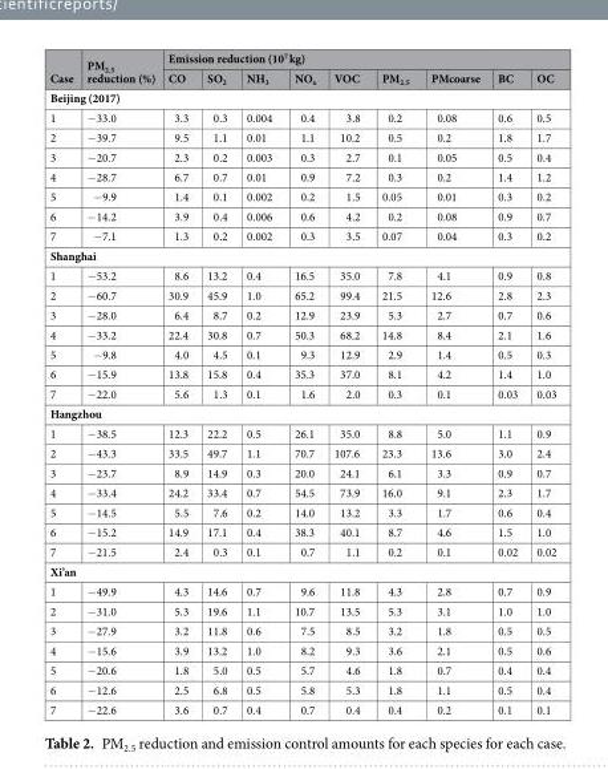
<table><thead><tr><td rowspan="2">Case</td><td rowspan="2">PM<sub>2.5</sub> reduction (%)</td><td colspan="9">Emission reduction (10<sup>7</sup> kg)</td></tr><tr><td>CO</td><td>SO<sub>2</sub></td><td>NH<sub>3</sub></td><td>NO<sub>x</sub></td><td>VOC</td><td>PM<sub>2.5</sub></td><td>PMcoarse</td><td>BC</td><td>OC</td></tr></thead><tbody><tr><td colspan="11">Beijing (2017)</td></tr><tr><td>1</td><td>−33.0</td><td>3.3</td><td>0.3</td><td>0.004</td><td>0.4</td><td>3.8</td><td>0.2</td><td>0.08</td><td>0.6</td><td>0.5</td></tr><tr><td>2</td><td>−39.7</td><td>9.5</td><td>1.1</td><td>0.01</td><td>1.1</td><td>10.2</td><td>0.5</td><td>0.2</td><td>1.8</td><td>1.7</td></tr><tr><td>3</td><td>−20.7</td><td>2.3</td><td>0.2</td><td>0.003</td><td>0.3</td><td>2.7</td><td>0.1</td><td>0.05</td><td>0.5</td><td>0.4</td></tr><tr><td>4</td><td>−28.7</td><td>6.7</td><td>0.7</td><td>0.01</td><td>0.9</td><td>7.2</td><td>0.3</td><td>0.2</td><td>1.4</td><td>1.2</td></tr><tr><td>5</td><td>−9.9</td><td>1.4</td><td>0.1</td><td>0.002</td><td>0.2</td><td>1.5</td><td>0.05</td><td>0.01</td><td>0.3</td><td>0.2</td></tr><tr><td>6</td><td>−14.2</td><td>3.9</td><td>0.4</td><td>0.006</td><td>0.6</td><td>4.2</td><td>0.2</td><td>0.08</td><td>0.9</td><td>0.7</td></tr><tr><td>7</td><td>−7.1</td><td>1.3</td><td>0.2</td><td>0.002</td><td>0.3</td><td>3.5</td><td>0.07</td><td>0.04</td><td>0.3</td><td>0.2</td></tr><tr><td colspan="11">Shanghai</td></tr><tr><td>1</td><td>−53.2</td><td>8.6</td><td>13.2</td><td>0.4</td><td>16.5</td><td>35.0</td><td>7.8</td><td>4.1</td><td>0.9</td><td>0.8</td></tr><tr><td>2</td><td>−60.7</td><td>30.9</td><td>45.9</td><td>1.0</td><td>65.2</td><td>99.4</td><td>21.5</td><td>12.6</td><td>2.8</td><td>2.3</td></tr><tr><td>3</td><td>−28.0</td><td>6.4</td><td>8.7</td><td>0.2</td><td>12.9</td><td>23.9</td><td>5.3</td><td>2.7</td><td>0.7</td><td>0.6</td></tr><tr><td>4</td><td>−33.2</td><td>22.4</td><td>30.8</td><td>0.7</td><td>50.3</td><td>68.2</td><td>14.8</td><td>8.4</td><td>2.1</td><td>1.6</td></tr><tr><td>5</td><td>−9.8</td><td>4.0</td><td>4.5</td><td>0.1</td><td>9.3</td><td>12.9</td><td>2.9</td><td>1.4</td><td>0.5</td><td>0.3</td></tr><tr><td>6</td><td>−15.9</td><td>13.8</td><td>15.8</td><td>0.4</td><td>35.3</td><td>37.0</td><td>8.1</td><td>4.2</td><td>1.4</td><td>1.0</td></tr><tr><td>7</td><td>−22.0</td><td>5.6</td><td>1.3</td><td>0.1</td><td>1.6</td><td>2.0</td><td>0.3</td><td>0.1</td><td>0.03</td><td>0.03</td></tr><tr><td colspan="11">Hangzhou</td></tr><tr><td>1</td><td>−38.5</td><td>12.3</td><td>22.2</td><td>0.5</td><td>26.1</td><td>35.0</td><td>8.8</td><td>5.0</td><td>1.1</td><td>0.9</td></tr><tr><td>2</td><td>−43.3</td><td>33.5</td><td>49.7</td><td>1.1</td><td>70.7</td><td>107.6</td><td>23.3</td><td>13.6</td><td>3.0</td><td>2.4</td></tr><tr><td>3</td><td>−23.7</td><td>8.9</td><td>14.9</td><td>0.3</td><td>20.0</td><td>24.1</td><td>6.1</td><td>3.3</td><td>0.9</td><td>0.7</td></tr><tr><td>4</td><td>−33.4</td><td>24.2</td><td>33.4</td><td>0.7</td><td>54.5</td><td>73.9</td><td>16.0</td><td>9.1</td><td>2.3</td><td>1.7</td></tr><tr><td>5</td><td>−14.5</td><td>5.5</td><td>7.6</td><td>0.2</td><td>14.0</td><td>13.2</td><td>3.3</td><td>1.7</td><td>0.6</td><td>0.4</td></tr><tr><td>6</td><td>−15.2</td><td>14.9</td><td>17.1</td><td>0.4</td><td>38.3</td><td>40.1</td><td>8.7</td><td>4.6</td><td>1.5</td><td>1.0</td></tr><tr><td>7</td><td>−21.5</td><td>2.4</td><td>0.3</td><td>0.1</td><td>0.7</td><td>1.1</td><td>0.2</td><td>0.1</td><td>0.02</td><td>0.02</td></tr><tr><td colspan="11">Xi’an</td></tr><tr><td>1</td><td>−49.9</td><td>4.3</td><td>14.6</td><td>0.7</td><td>9.6</td><td>11.8</td><td>4.3</td><td>2.8</td><td>0.7</td><td>0.9</td></tr><tr><td>2</td><td>−31.0</td><td>5.3</td><td>19.6</td><td>1.1</td><td>10.7</td><td>13.5</td><td>5.3</td><td>3.1</td><td>1.0</td><td>1.0</td></tr><tr><td>3</td><td>−27.9</td><td>3.2</td><td>11.8</td><td>0.6</td><td>7.5</td><td>8.5</td><td>3.2</td><td>1.8</td><td>0.5</td><td>0.5</td></tr><tr><td>4</td><td>−15.6</td><td>3.9</td><td>13.2</td><td>1.0</td><td>8.2</td><td>9.3</td><td>3.6</td><td>2.1</td><td>0.5</td><td>0.6</td></tr><tr><td>5</td><td>−20.6</td><td>1.8</td><td>5.0</td><td>0.5</td><td>5.7</td><td>4.6</td><td>1.8</td><td>0.7</td><td>0.4</td><td>0.4</td></tr><tr><td>6</td><td>−12.6</td><td>2.5</td><td>6.8</td><td>0.5</td><td>5.8</td><td>5.3</td><td>1.8</td><td>1.1</td><td>0.5</td><td>0.4</td></tr><tr><td>7</td><td>−22.6</td><td>3.6</td><td>0.7</td><td>0.4</td><td>0.7</td><td>0.4</td><td>0.4</td><td>0.2</td><td>0.1</td><td>0.1</td></tr></tbody></table>